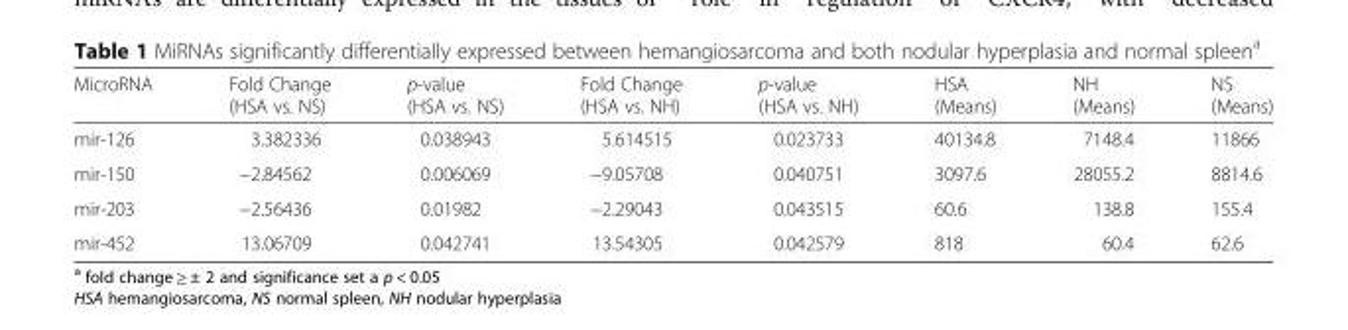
<table><thead><tr><td>MicroRNA</td><td>Fold Change (HSA vs. NS)</td><td>p-value (HSA vs. NS)</td><td>Fold Change (HSA vs. NH)</td><td>p-value (HSA vs. NH)</td><td>HSA (Means)</td><td>NH (Means)</td><td>NS (Means)</td></tr></thead><tbody><tr><td>mir-126</td><td>3.382336</td><td>0.038943</td><td>5.614515</td><td>0.023733</td><td>40134.8</td><td>7148.4</td><td>11866</td></tr><tr><td>mir-150</td><td>−2.84562</td><td>0.006069</td><td>−9.05708</td><td>0.040751</td><td>3097.6</td><td>28055.2</td><td>8814.6</td></tr><tr><td>mir-203</td><td>−2.56436</td><td>0.01982</td><td>−2.29043</td><td>0.043515</td><td>60.6</td><td>138.8</td><td>155.4</td></tr><tr><td>mir-452</td><td>13.06709</td><td>0.042741</td><td>13.54305</td><td>0.042579</td><td>818</td><td>60.4</td><td>62.6</td></tr></tbody></table>